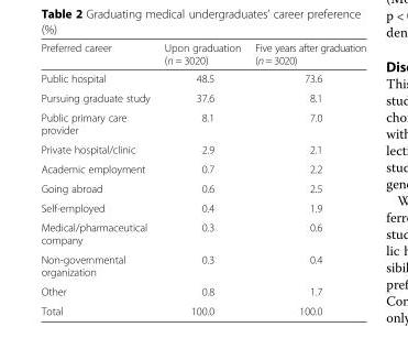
<table><thead><tr><td>Preferred career</td><td>Upon graduation (n = 3020)</td><td>Five years after graduation (n = 3020)</td></tr></thead><tbody><tr><td>Public hospital</td><td>48.5</td><td>73.6</td></tr><tr><td>Pursuing graduate study</td><td>37.6</td><td>8.1</td></tr><tr><td>Public primary care provider</td><td>8.1</td><td>7.0</td></tr><tr><td>Private hospital/clinic</td><td>2.9</td><td>2.1</td></tr><tr><td>Academic employment</td><td>0.7</td><td>2.2</td></tr><tr><td>Going abroad</td><td>0.6</td><td>2.5</td></tr><tr><td>Self-employed</td><td>0.4</td><td>1.9</td></tr><tr><td>Medical/pharmaceutical company</td><td>0.3</td><td>0.6</td></tr><tr><td>Non-governmental organization</td><td>0.3</td><td>0.4</td></tr><tr><td>Other</td><td>0.8</td><td>1.7</td></tr><tr><td>Total</td><td>100.0</td><td>100.0</td></tr></tbody></table>